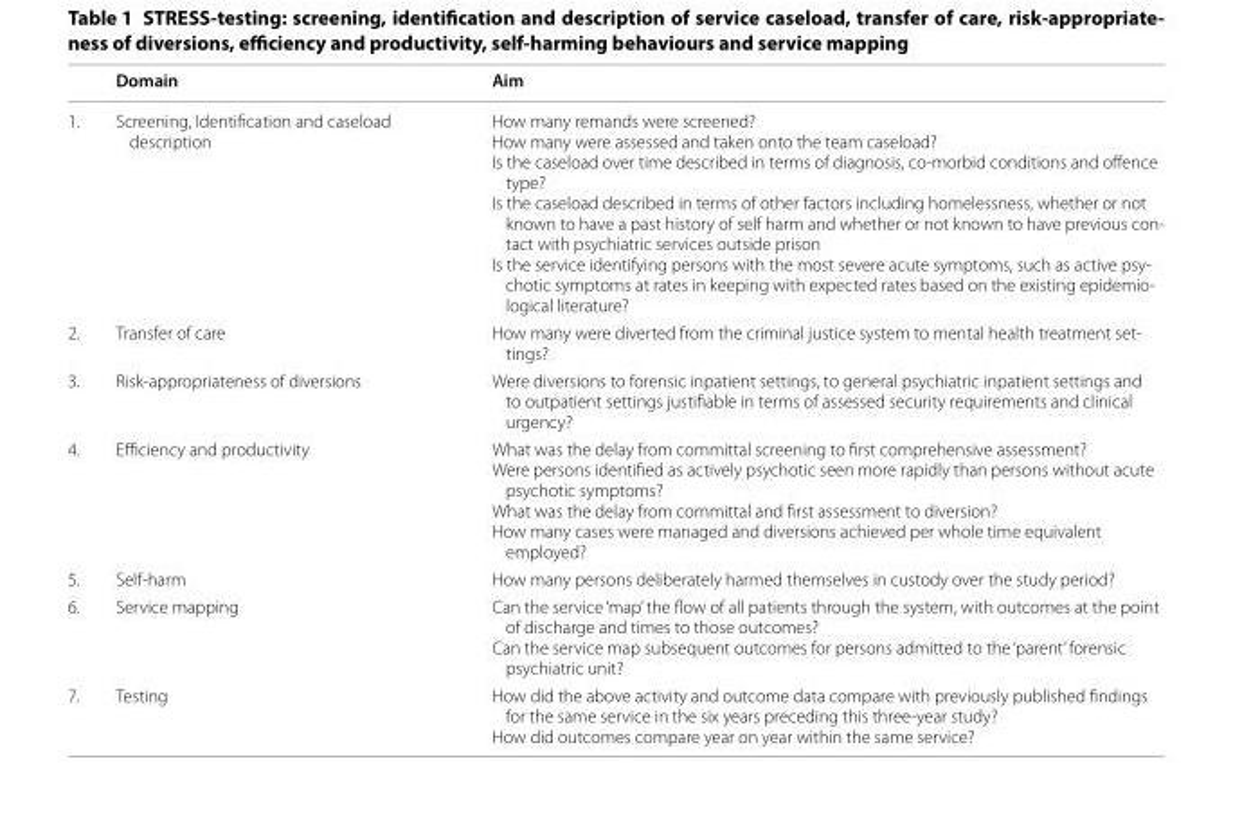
<table><thead><tr><td></td><td>Domain</td><td>Aim</td></tr></thead><tbody><tr><td>1.</td><td>Screening, Identification and caseload description</td><td>How many remands were screened? How many were assessed and taken onto the team caseload? Is the caseload over time described in terms of diagnosis, co-morbid conditions and offence type? Is the caseload described in terms of other factors including homelessness, whether or not known to have a past history of self harm and whether or not known to have previous con- tact with psychiatric services outside prison Is the service identifying persons with the most severe acute symptoms, such as active psy- chotic symptoms at rates in keeping with expected rates based on the existing epidemio- logical literature?</td></tr><tr><td>2.</td><td>Transfer of care</td><td>How many were diverted from the criminal justice system to mental health treatment set- tings?</td></tr><tr><td>3.</td><td>Risk-appropriateness of diversions</td><td>Were diversions to forensic inpatient settings, to general psychiatric inpatient settings and to outpatient settings justifiable in terms of assessed security requirements and clinical urgency?</td></tr><tr><td>4.</td><td>Efficiency and productivity</td><td>What was the delay from committal screening to first comprehensive assessment? Were persons identified as actively psychotic seen more rapidly than persons without acute psychotic symptoms? What was the delay from committal and first assessment to diversion? How many cases were managed and diversions achieved per whole time equivalent employed?</td></tr><tr><td>5.</td><td>Self-harm</td><td>How many persons deliberately harmed themselves in custody over the study period?</td></tr><tr><td>6.</td><td>Service mapping</td><td>Can the service ‘map’ the flow of all patients through the system, with outcomes at the point of discharge and times to those outcomes? Can the service map subsequent outcomes for persons admitted to the ‘parent’ forensic psychiatric unit?</td></tr><tr><td>7.</td><td>Testing</td><td>How did the above activity and outcome data compare with previously published findings for the same service in the six years preceding this three-year study? How did outcomes compare year on year within the same service?</td></tr></tbody></table>